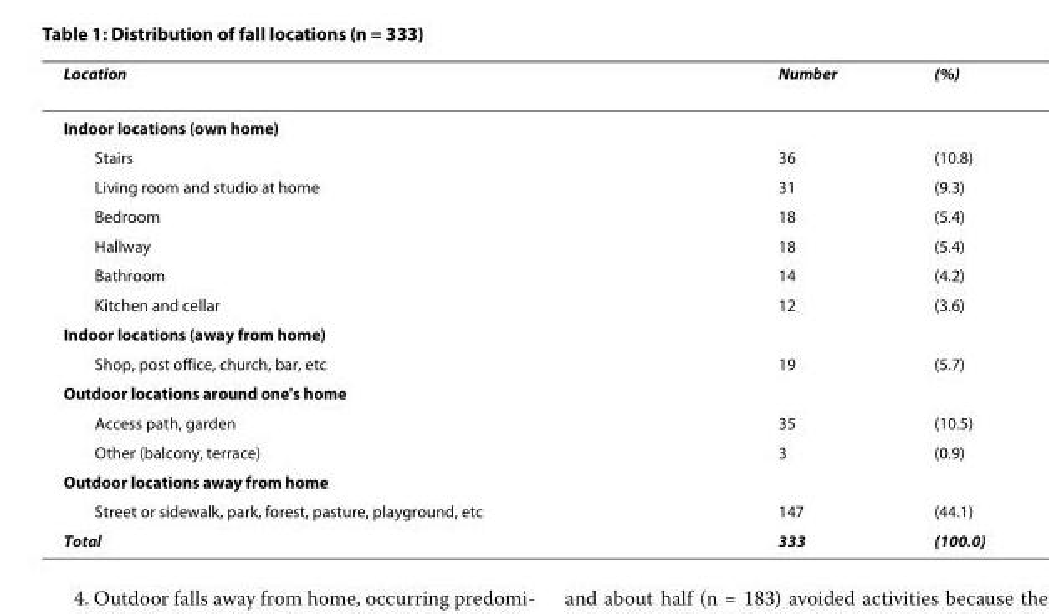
<table><thead><tr><td>Location</td><td>Number</td><td>(%)</td></tr></thead><tbody><tr><td colspan="3">Indoor locations (own home)</td></tr><tr><td>Stairs</td><td>36</td><td>(10.8)</td></tr><tr><td>Living room and studio at home</td><td>31</td><td>(9.3)</td></tr><tr><td>Bedroom</td><td>18</td><td>(5.4)</td></tr><tr><td>Hallway</td><td>18</td><td>(5.4)</td></tr><tr><td>Bathroom</td><td>14</td><td>(4.2)</td></tr><tr><td>Kitchen and cellar</td><td>12</td><td>(3.6)</td></tr><tr><td colspan="3">Indoor locations (away from home)</td></tr><tr><td>Shop, post office, church, bar, etc</td><td>19</td><td>(5.7)</td></tr><tr><td colspan="3">Outdoor locations around one&#x27;s home</td></tr><tr><td>Access path, garden</td><td>35</td><td>(10.5)</td></tr><tr><td>Other (balcony, terrace)</td><td>3</td><td>(0.9)</td></tr><tr><td colspan="3">Outdoor locations away from home</td></tr><tr><td>Street or sidewalk, park, forest, pasture, playground, etc</td><td>147</td><td>(44.1)</td></tr><tr><td>Total</td><td>333</td><td>(100.0)</td></tr></tbody></table>